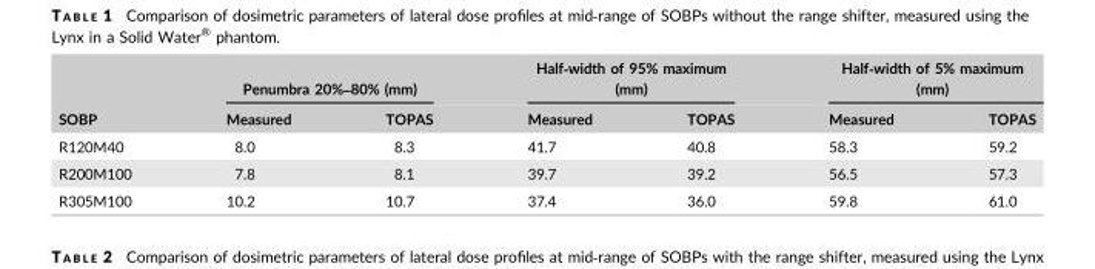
<table><thead><tr><td rowspan="2">SOBP</td><td colspan="2">Penumbra 20%–80% (mm)</td><td colspan="2">Half‐width of 95% maximum (mm)</td><td colspan="2">Half‐width of 5% maximum (mm)</td></tr><tr><td>Measured</td><td>TOPAS</td><td>Measured</td><td>TOPAS</td><td>Measured</td><td>TOPAS</td></tr></thead><tbody><tr><td>R120M40</td><td>8.0</td><td>8.3</td><td>41.7</td><td>40.8</td><td>58.3</td><td>59.2</td></tr><tr><td>R200M100</td><td>7.8</td><td>8.1</td><td>39.7</td><td>39.2</td><td>56.5</td><td>57.3</td></tr><tr><td>R305M100</td><td>10.2</td><td>10.7</td><td>37.4</td><td>36.0</td><td>59.8</td><td>61.0</td></tr></tbody></table>